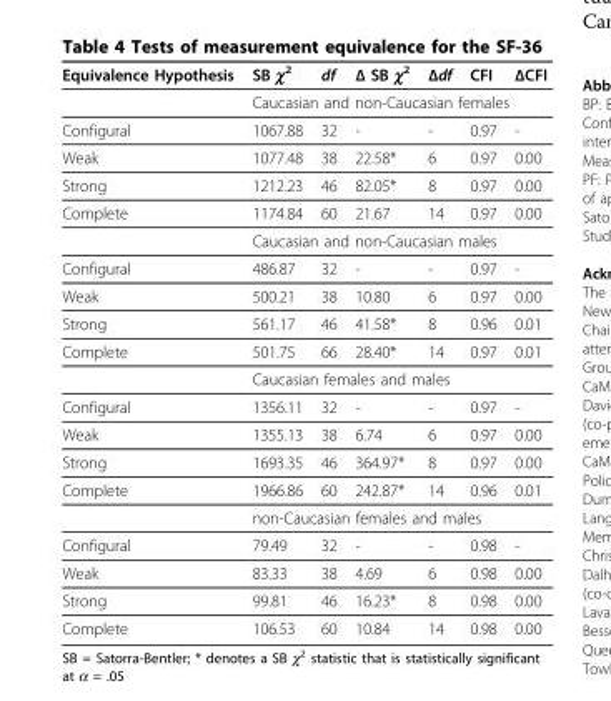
<table><thead><tr><td>Equivalence Hypothesis</td><td>SB χ<sup>2</sup></td><td>df</td><td>Δ SB χ<sup>2</sup></td><td>Δdf</td><td>CFI</td><td>ΔCFI</td></tr></thead><tbody><tr><td></td><td colspan="6">Caucasian and non-Caucasian females</td></tr><tr><td>Configural</td><td>1067.88</td><td>32</td><td>-</td><td>-</td><td>0.97</td><td>-</td></tr><tr><td>Weak</td><td>1077.48</td><td>38</td><td>22.58*</td><td>6</td><td>0.97</td><td>0.00</td></tr><tr><td>Strong</td><td>1212.23</td><td>46</td><td>82.05*</td><td>8</td><td>0.97</td><td>0.00</td></tr><tr><td rowspan="2">Complete</td><td>1174.84</td><td>60</td><td>21.67</td><td>14</td><td>0.97</td><td>0.00</td></tr><tr><td colspan="6">Caucasian and non-Caucasian males</td></tr><tr><td>Configural</td><td>486.87</td><td>32</td><td>-</td><td>-</td><td>0.97</td><td>-</td></tr><tr><td>Weak</td><td>500.21</td><td>38</td><td>10.80</td><td>6</td><td>0.97</td><td>0.00</td></tr><tr><td>Strong</td><td>561.17</td><td>46</td><td>41.58*</td><td>8</td><td>0.96</td><td>0.01</td></tr><tr><td rowspan="2">Complete</td><td>501.75</td><td>66</td><td>28.40*</td><td>14</td><td>0.97</td><td>0.01</td></tr><tr><td colspan="6">Caucasian females and males</td></tr><tr><td>Configural</td><td>1356.11</td><td>32</td><td>-</td><td>-</td><td>0.97</td><td>-</td></tr><tr><td>Weak</td><td>1355.13</td><td>38</td><td>6.74</td><td>6</td><td>0.97</td><td>0.00</td></tr><tr><td>Strong</td><td>1693.35</td><td>46</td><td>364.97*</td><td>8</td><td>0.97</td><td>0.00</td></tr><tr><td rowspan="2">Complete</td><td>1966.86</td><td>60</td><td>242.87*</td><td>14</td><td>0.96</td><td>0.01</td></tr><tr><td colspan="6">non-Caucasian females and males</td></tr><tr><td>Configural</td><td>79.49</td><td>32</td><td>-</td><td>-</td><td>0.98</td><td>-</td></tr><tr><td>Weak</td><td>83.33</td><td>38</td><td>4.69</td><td>6</td><td>0.98</td><td>0.00</td></tr><tr><td>Strong</td><td>99.81</td><td>46</td><td>16.23*</td><td>8</td><td>0.98</td><td>0.00</td></tr><tr><td>Complete</td><td>106.53</td><td>60</td><td>10.84</td><td>14</td><td>0.98</td><td>0.00</td></tr></tbody></table>